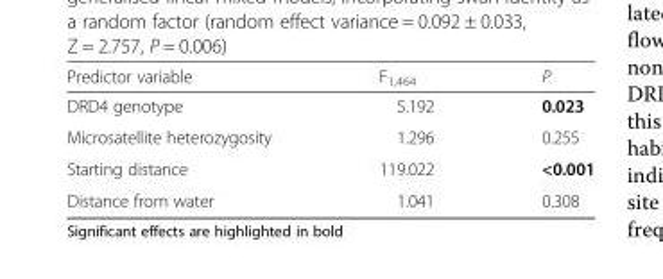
<table><thead><tr><td>Predictor variable</td><td>F<sub>1,464</sub></td><td>P</td></tr></thead><tbody><tr><td>DRD4 genotype</td><td>5.192</td><td>0.023</td></tr><tr><td>Microsatellite heterozygosity</td><td>1.296</td><td>0.255</td></tr><tr><td>Starting distance</td><td>119.022</td><td>&lt;0.001</td></tr><tr><td>Distance from water</td><td>1.041</td><td>0.308</td></tr></tbody></table>